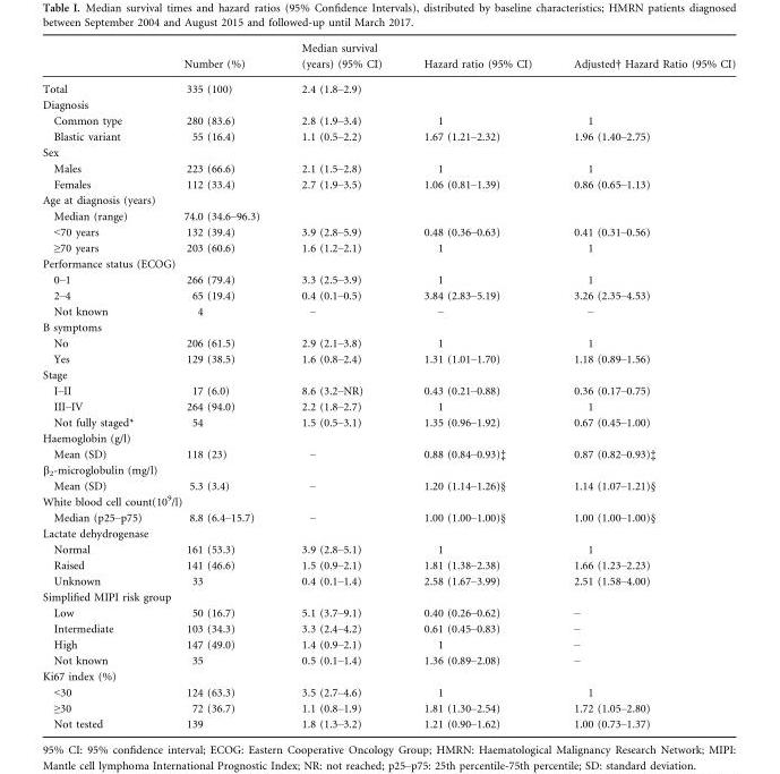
<table><thead><tr><td></td><td>Number (%)</td><td>Median survival (years) (95% CI)</td><td>Hazard ratio (95% CI)</td><td>Adjusted† Hazard Ratio (95% CI)</td></tr></thead><tbody><tr><td>Total</td><td>335 (100)</td><td>2.4 (1.8–2.9)</td><td></td><td></td></tr><tr><td colspan="5">Diagnosis</td></tr><tr><td>Common type</td><td>280 (83.6)</td><td>2.8 (1.9–3.4)</td><td>1</td><td>1</td></tr><tr><td>Blastic variant</td><td>55 (16.4)</td><td>1.1 (0.5–2.2)</td><td>1.67 (1.21–2.32)</td><td>1.96 (1.40–2.75)</td></tr><tr><td colspan="5">Sex</td></tr><tr><td>Males</td><td>223 (66.6)</td><td>2.1 (1.5–2.8)</td><td>1</td><td>1</td></tr><tr><td>Females</td><td>112 (33.4)</td><td>2.7 (1.9–3.5)</td><td>1.06 (0.81–1.39)</td><td>0.86 (0.65–1.13)</td></tr><tr><td colspan="5">Age at diagnosis (years)</td></tr><tr><td>Median (range)</td><td>74.0 (34.6–96.3)</td><td></td><td></td><td></td></tr><tr><td>&lt;70 years</td><td>132 (39.4)</td><td>3.9 (2.8–5.9)</td><td>0.48 (0.36–0.63)</td><td>0.41 (0.31–0.56)</td></tr><tr><td>≥70 years</td><td>203 (60.6)</td><td>1.6 (1.2–2.1)</td><td>1</td><td>1</td></tr><tr><td colspan="5">Performance status (ECOG)</td></tr><tr><td>0–1</td><td>266 (79.4)</td><td>3.3 (2.5–3.9)</td><td>1</td><td>1</td></tr><tr><td>2–4</td><td>65 (19.4)</td><td>0.4 (0.1–0.5)</td><td>3.84 (2.83–5.19)</td><td>3.26 (2.35–4.53)</td></tr><tr><td>Not known</td><td>4</td><td>–</td><td>–</td><td>–</td></tr><tr><td colspan="5">B symptoms</td></tr><tr><td>No</td><td>206 (61.5)</td><td>2.9 (2.1–3.8)</td><td>1</td><td>1</td></tr><tr><td>Yes</td><td>129 (38.5)</td><td>1.6 (0.8–2.4)</td><td>1.31 (1.01–1.70)</td><td>1.18 (0.89–1.56)</td></tr><tr><td colspan="5">Stage</td></tr><tr><td>I–II</td><td>17 (6.0)</td><td>8.6 (3.2–NR)</td><td>0.43 (0.21–0.88)</td><td>0.36 (0.17–0.75)</td></tr><tr><td>III–IV</td><td>264 (94.0)</td><td>2.2 (1.8–2.7)</td><td>1</td><td>1</td></tr><tr><td>Not fully staged*</td><td>54</td><td>1.5 (0.5–3.1)</td><td>1.35 (0.96–1.92)</td><td>0.67 (0.45–1.00)</td></tr><tr><td colspan="5">Haemoglobin (g/l)</td></tr><tr><td>Mean (SD)</td><td>118 (23)</td><td>–</td><td>0.88 (0.84–0.93)‡</td><td>0.87 (0.82–0.93)‡</td></tr><tr><td colspan="5">β<sub>2</sub>-microglobulin (mg/l)</td></tr><tr><td>Mean (SD)</td><td>5.3 (3.4)</td><td>–</td><td>1.20 (1.14–1.26)§</td><td>1.14 (1.07–1.21)§</td></tr><tr><td colspan="5">White blood cell count(10<sup>9</sup>/l)</td></tr><tr><td>Median (p25–p75)</td><td>8.8 (6.4–15.7)</td><td>–</td><td>1.00 (1.00–1.00)§</td><td>1.00 (1.00–1.00)§</td></tr><tr><td colspan="5">Lactate dehydrogenase</td></tr><tr><td>Normal</td><td>161 (53.3)</td><td>3.9 (2.8–5.1)</td><td>1</td><td>1</td></tr><tr><td>Raised</td><td>141 (46.6)</td><td>1.5 (0.9–2.1)</td><td>1.81 (1.38–2.38)</td><td>1.66 (1.23–2.23)</td></tr><tr><td>Unknown</td><td>33</td><td>0.4 (0.1–1.4)</td><td>2.58 (1.67–3.99)</td><td>2.51 (1.58–4.00)</td></tr><tr><td colspan="5">Simplified MIPI risk group</td></tr><tr><td>Low</td><td>50 (16.7)</td><td>5.1 (3.7–9.1)</td><td>0.40 (0.26–0.62)</td><td>–</td></tr><tr><td>Intermediate</td><td>103 (34.3)</td><td>3.3 (2.4–4.2)</td><td>0.61 (0.45–0.83)</td><td>–</td></tr><tr><td>High</td><td>147 (49.0)</td><td>1.4 (0.9–2.1)</td><td>1</td><td>–</td></tr><tr><td>Not known</td><td>35</td><td>0.5 (0.1–1.4)</td><td>1.36 (0.89–2.08)</td><td>–</td></tr><tr><td colspan="5">Ki67 index (%)</td></tr><tr><td>&lt;30</td><td>124 (63.3)</td><td>3.5 (2.7–4.6)</td><td>1</td><td>1</td></tr><tr><td>≥30</td><td>72 (36.7)</td><td>1.1 (0.8–1.9)</td><td>1.81 (1.30–2.54)</td><td>1.72 (1.05–2.80)</td></tr><tr><td>Not tested</td><td>139</td><td>1.8 (1.3–3.2)</td><td>1.21 (0.90–1.62)</td><td>1.00 (0.73–1.37)</td></tr></tbody></table>